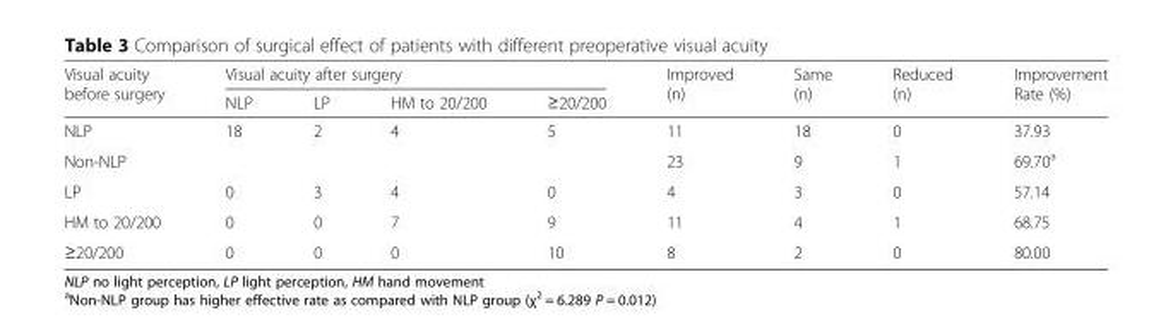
<table><thead><tr><td rowspan="2">Visual acuity before surgery</td><td colspan="4">Visual acuity after surgery</td><td rowspan="2">Improved (n)</td><td rowspan="2">Same (n)</td><td rowspan="2">Reduced (n)</td><td rowspan="2">Improvement Rate (%)</td></tr><tr><td>NLP</td><td>LP</td><td>HM to 20/200</td><td>≥20/200</td></tr></thead><tbody><tr><td>NLP</td><td>18</td><td>2</td><td>4</td><td>5</td><td>11</td><td>18</td><td>0</td><td>37.93</td></tr><tr><td>Non-NLP</td><td></td><td></td><td></td><td></td><td>23</td><td>9</td><td>1</td><td>69.70<sup>a</sup></td></tr><tr><td>LP</td><td>0</td><td>3</td><td>4</td><td>0</td><td>4</td><td>3</td><td>0</td><td>57.14</td></tr><tr><td>HM to 20/200</td><td>0</td><td>0</td><td>7</td><td>9</td><td>11</td><td>4</td><td>1</td><td>68.75</td></tr><tr><td>≥20/200</td><td>0</td><td>0</td><td>0</td><td>10</td><td>8</td><td>2</td><td>0</td><td>80.00</td></tr></tbody></table>